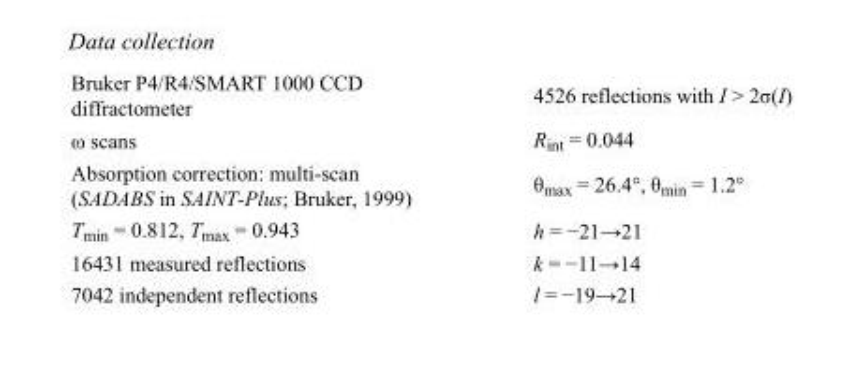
<table><tbody><tr><td>Bruker P4/R4/SMART 1000 CCD diffractometer</td><td>4526 reflections with I &gt; 2σ(I)</td></tr><tr><td>ω scans</td><td>R<sub>int</sub> = 0.044</td></tr><tr><td>Absorption correction: multi-scan (SADABS in SAINT-Plus; Bruker, 1999)</td><td>θ<sub>max</sub> = 26.4°, θ<sub>min</sub> = 1.2°</td></tr><tr><td>T<sub>min</sub> = 0.812, T<sub>max</sub> = 0.943</td><td>h = −21→21</td></tr><tr><td>16431 measured reflections</td><td>k = −11→14</td></tr><tr><td>7042 independent reflections</td><td>l = −19→21</td></tr></tbody></table>